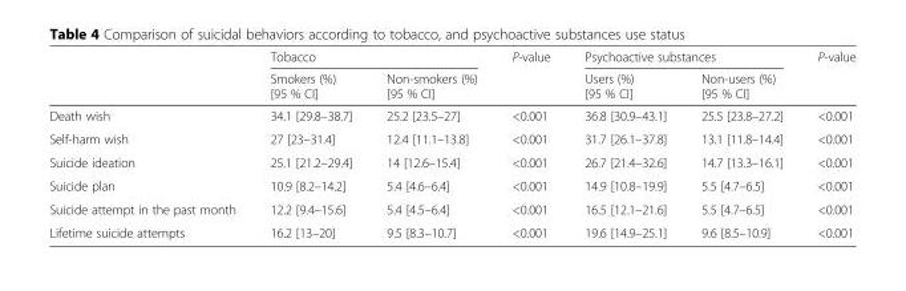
<table><thead><tr><td rowspan="2"></td><td colspan="2">Tobacco</td><td rowspan="2">P-value</td><td colspan="2">Psychoactive substances</td><td rowspan="2">P-value</td></tr><tr><td>Smokers (%) [95 % CI]</td><td>Non-smokers (%) [95 % CI]</td><td>Users (%) [95 % CI]</td><td>Non-users (%) [95 % CI]</td></tr></thead><tbody><tr><td>Death wish</td><td>34.1 [29.8–38.7]</td><td>25.2 [23.5–27]</td><td>&lt;0.001</td><td>36.8 [30.9–43.1]</td><td>25.5 [23.8–27.2]</td><td>&lt;0.001</td></tr><tr><td>Self-harm wish</td><td>27 [23–31.4]</td><td>12.4 [11.1–13.8]</td><td>&lt;0.001</td><td>31.7 [26.1–37.8]</td><td>13.1 [11.8–14.4]</td><td>&lt;0.001</td></tr><tr><td>Suicide ideation</td><td>25.1 [21.2–29.4]</td><td>14 [12.6–15.4]</td><td>&lt;0.001</td><td>26.7 [21.4–32.6]</td><td>14.7 [13.3–16.1]</td><td>&lt;0.001</td></tr><tr><td>Suicide plan</td><td>10.9 [8.2–14.2]</td><td>5.4 [4.6–6.4]</td><td>&lt;0.001</td><td>14.9 [10.8–19.9]</td><td>5.5 [4.7–6.5]</td><td>&lt;0.001</td></tr><tr><td>Suicide attempt in the past month</td><td>12.2 [9.4–15.6]</td><td>5.4 [4.5–6.4]</td><td>&lt;0.001</td><td>16.5 [12.1–21.6]</td><td>5.5 [4.7–6.5]</td><td>&lt;0.001</td></tr><tr><td>Lifetime suicide attempts</td><td>16.2 [13–20]</td><td>9.5 [8.3–10.7]</td><td>&lt;0.001</td><td>19.6 [14.9–25.1]</td><td>9.6 [8.5–10.9]</td><td>&lt;0.001</td></tr></tbody></table>